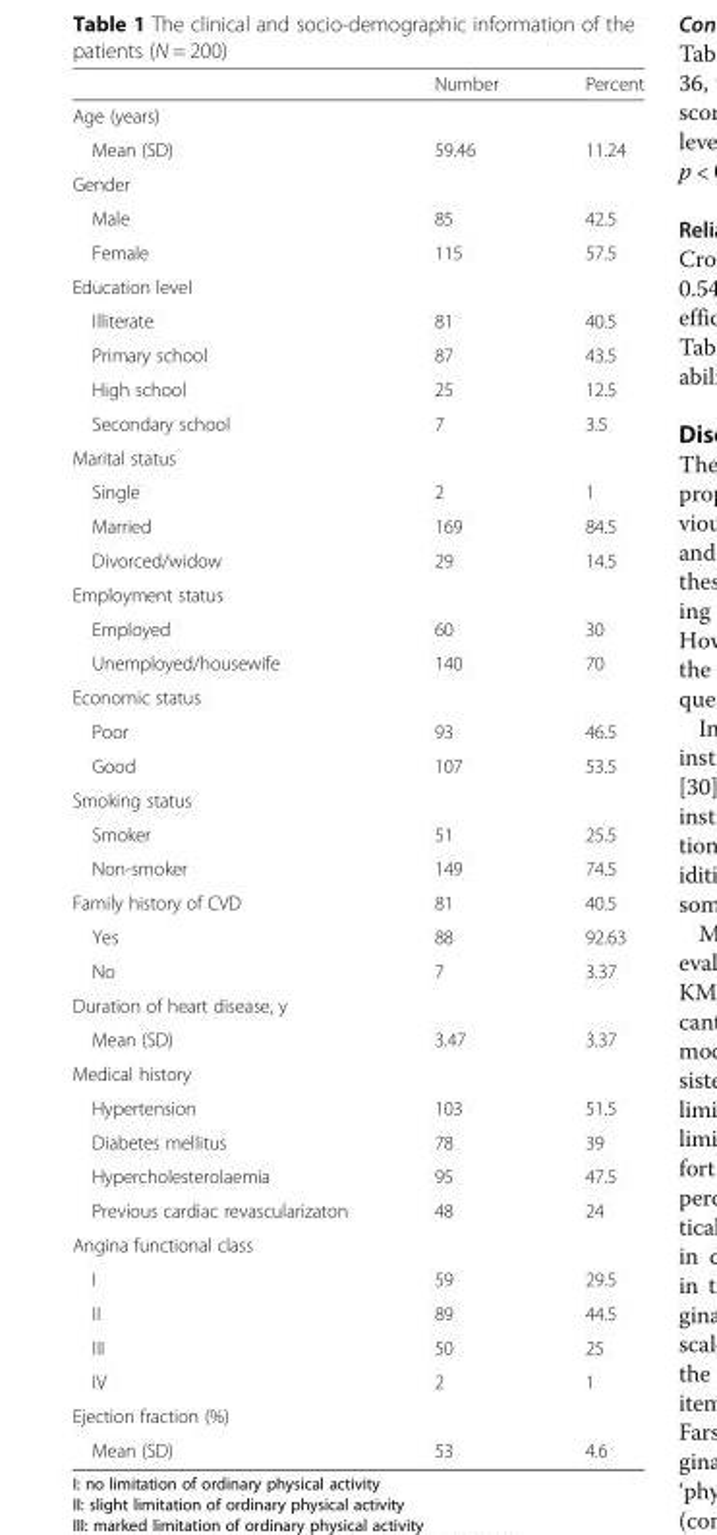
<table><thead><tr><td></td><td>Number</td><td>Percent</td></tr></thead><tbody><tr><td colspan="3">Age (years)</td></tr><tr><td>Mean (SD)</td><td>59.46</td><td>11.24</td></tr><tr><td colspan="3">Gender</td></tr><tr><td>Male</td><td>85</td><td>42.5</td></tr><tr><td>Female</td><td>115</td><td>57.5</td></tr><tr><td colspan="3">Education level</td></tr><tr><td>Illiterate</td><td>81</td><td>40.5</td></tr><tr><td>Primary school</td><td>87</td><td>43.5</td></tr><tr><td>High school</td><td>25</td><td>12.5</td></tr><tr><td>Secondary school</td><td>7</td><td>3.5</td></tr><tr><td colspan="3">Marital status</td></tr><tr><td>Single</td><td>2</td><td>1</td></tr><tr><td>Married</td><td>169</td><td>84.5</td></tr><tr><td>Divorced/widow</td><td>29</td><td>14.5</td></tr><tr><td colspan="3">Employment status</td></tr><tr><td>Employed</td><td>60</td><td>30</td></tr><tr><td>Unemployed/housewife</td><td>140</td><td>70</td></tr><tr><td colspan="3">Economic status</td></tr><tr><td>Poor</td><td>93</td><td>46.5</td></tr><tr><td>Good</td><td>107</td><td>53.5</td></tr><tr><td colspan="3">Smoking status</td></tr><tr><td>Smoker</td><td>51</td><td>25.5</td></tr><tr><td>Non-smoker</td><td>149</td><td>74.5</td></tr><tr><td>Family history of CVD</td><td>81</td><td>40.5</td></tr><tr><td>Yes</td><td>88</td><td>92.63</td></tr><tr><td>No</td><td>7</td><td>3.37</td></tr><tr><td colspan="3">Duration of heart disease, y</td></tr><tr><td>Mean (SD)</td><td>3.47</td><td>3.37</td></tr><tr><td colspan="3">Medical history</td></tr><tr><td>Hypertension</td><td>103</td><td>51.5</td></tr><tr><td>Diabetes mellitus</td><td>78</td><td>39</td></tr><tr><td>Hypercholesterolaemia</td><td>95</td><td>47.5</td></tr><tr><td>Previous cardiac revascularizaton</td><td>48</td><td>24</td></tr><tr><td colspan="3">Angina functional class</td></tr><tr><td>I</td><td>59</td><td>29.5</td></tr><tr><td>II</td><td>89</td><td>44.5</td></tr><tr><td>III</td><td>50</td><td>25</td></tr><tr><td>IV</td><td>2</td><td>1</td></tr><tr><td colspan="3">Ejection fraction (%)</td></tr><tr><td>Mean (SD)</td><td>53</td><td>4.6</td></tr></tbody></table>